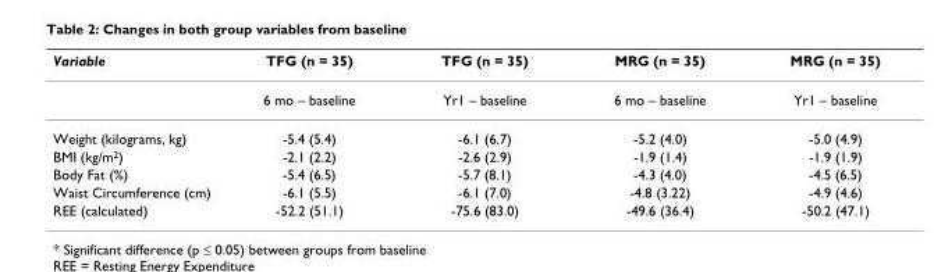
<table><thead><tr><td>Variable</td><td>TFG (n = 35)</td><td>TFG (n = 35)</td><td>MRG (n = 35)</td><td>MRG (n = 35)</td></tr></thead><tbody><tr><td></td><td>6 mo – baseline</td><td>Yr1 – baseline</td><td>6 mo – baseline</td><td>Yr1 – baseline</td></tr><tr><td>Weight (kilograms, kg)</td><td>-5.4 (5.4)</td><td>-6.1 (6.7)</td><td>-5.2 (4.0)</td><td>-5.0 (4.9)</td></tr><tr><td>BMI (kg/m<sup>2</sup>)</td><td>-2.1 (2.2)</td><td>-2.6 (2.9)</td><td>-1.9 (1.4)</td><td>-1.9 (1.9)</td></tr><tr><td>Body Fat (%)</td><td>-5.4 (6.5)</td><td>-5.7 (8.1)</td><td>-4.3 (4.0)</td><td>-4.5 (6.5)</td></tr><tr><td>Waist Circumference (cm)</td><td>-6.1 (5.5)</td><td>-6.1 (7.0)</td><td>-4.8 (3.22)</td><td>-4.9 (4.6)</td></tr><tr><td>REE (calculated)</td><td>-52.2 (51.1)</td><td>-75.6 (83.0)</td><td>-49.6 (36.4)</td><td>-50.2 (47.1)</td></tr></tbody></table>